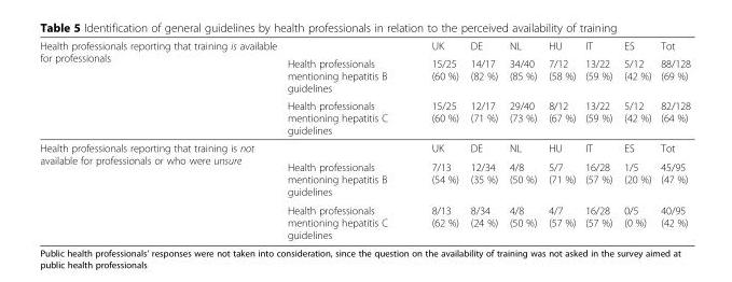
<table><thead><tr><td rowspan="3">Health professionals reporting that training is available for professionals</td><td rowspan="3">Health professionals mentioning hepatitis B guidelines Health professionals mentioning hepatitis C guidelines</td><td rowspan="3">UK 15/25 (60 %) 15/25 (60 %)</td><td rowspan="3">DE 14/17 (82 %) 12/17 (71 %)</td><td rowspan="3">NL 34/40 (85 %) 29/40 (73 %)</td><td rowspan="3">HU 7/12 (58 %) 8/12 (67 %)</td><td rowspan="3">IT 13/22 (59 %) 13/22 (59 %)</td><td rowspan="3">ES 5/12 (42 %) 5/12 (42 %)</td><td rowspan="3">Tot 88/128 (69 %) 82/128 (64 %)</td></tr><tr></tr><tr></tr></thead><tbody><tr><td rowspan="3">Health professionals reporting that training is not available for professionals or who were unsure</td><td></td><td>UK</td><td>DE</td><td>NL</td><td>HU</td><td>IT</td><td>ES</td><td>Tot</td></tr><tr><td>Health professionals mentioning hepatitis B guidelines</td><td>7/13 (54 %)</td><td>12/34 (35 %)</td><td>4/8 (50 %)</td><td>5/7 (71 %)</td><td>16/28 (57 %)</td><td>1/5 (20 %)</td><td>45/95 (47 %)</td></tr><tr><td>Health professionals mentioning hepatitis C guidelines</td><td>8/13 (62 %)</td><td>8/34 (24 %)</td><td>4/8 (50 %)</td><td>4/7 (57 %)</td><td>16/28 (57 %)</td><td>0/5 (0 %)</td><td>40/95 (42 %)</td></tr></tbody></table>